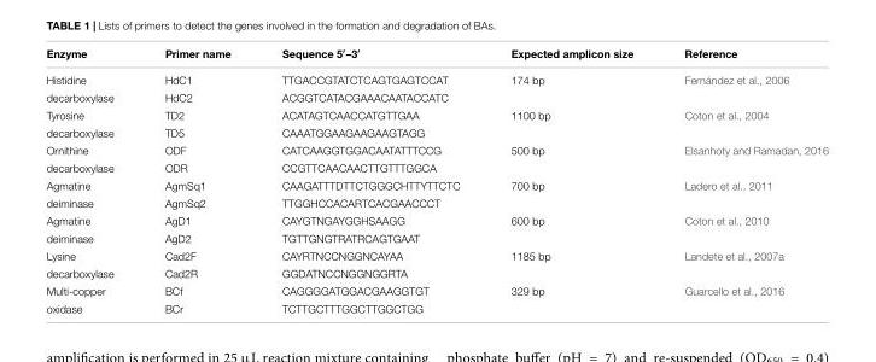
<table><thead><tr><td>Enzyme</td><td>Primer name</td><td>Sequence 5′–3′</td><td>Expected amplicon size</td><td>Reference</td></tr></thead><tbody><tr><td>Histidine</td><td>HdC1</td><td>TTGACCGTATCTCAGTGAGTCCAT</td><td>174 bp</td><td>Fernández et al., 2006</td></tr><tr><td>decarboxylase</td><td>HdC2</td><td>ACGGTCATACGAAACAATACCATC</td><td></td><td></td></tr><tr><td>Tyrosine</td><td>TD2</td><td>ACATAGTCAACCATGTTGAA</td><td>1100 bp</td><td>Coton et al., 2004</td></tr><tr><td>decarboxylase</td><td>TD5</td><td>CAAATGGAAGAAGAAGTAGG</td><td></td><td></td></tr><tr><td>Ornithine</td><td>ODF</td><td>CATCAAGGTGGACAATATTTCCG</td><td>500 bp</td><td>Elsanhoty and Ramadan, 2016</td></tr><tr><td>decarboxylase</td><td>ODR</td><td>CCGTTCAACAACTTGTTTGGCA</td><td></td><td></td></tr><tr><td>Agmatine</td><td>AgmSq1</td><td>CAAGATTTDTTCTGGGCHTTYTTCTC</td><td>700 bp</td><td>Ladero et al., 2011</td></tr><tr><td>deiminase</td><td>AgmSq2</td><td>TTGGHCCACARTCACGAACCCT</td><td></td><td></td></tr><tr><td>Agmatine</td><td>AgD1</td><td>CAYGTNGAYGGHSAAGG</td><td>600 bp</td><td>Coton et al., 2010</td></tr><tr><td>deiminase</td><td>AgD2</td><td>TGTTGNGTRATRCAGTGAAT</td><td></td><td></td></tr><tr><td>Lysine</td><td>Cad2F</td><td>CAYRTNCCNGGNCAYAA</td><td>1185 bp</td><td>Landete et al., 2007a</td></tr><tr><td>decarboxylase</td><td>Cad2R</td><td>GGDATNCCNGGNGGRTA</td><td></td><td></td></tr><tr><td>Multi-copper</td><td>BCf</td><td>CAGGGGATGGACGAAGGTGT</td><td>329 bp</td><td>Guarcello et al., 2016</td></tr><tr><td>oxidase</td><td>BCr</td><td>TCTTGCTTTGGCTTGGCTGG</td><td></td><td></td></tr></tbody></table>